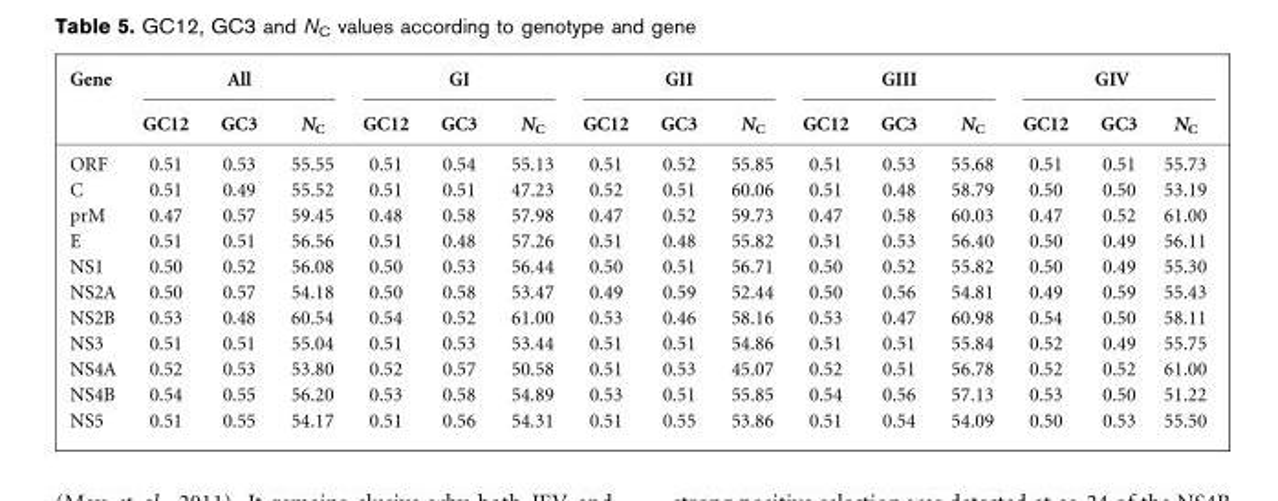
<table><thead><tr><td rowspan="2">Gene</td><td colspan="3">All</td><td colspan="3">GI</td><td colspan="3">GII</td><td colspan="3">GIII</td><td colspan="3">GIV</td></tr><tr><td>GC12</td><td>GC3</td><td>N<sub>C</sub></td><td>GC12</td><td>GC3</td><td>N<sub>C</sub></td><td>GC12</td><td>GC3</td><td>N<sub>C</sub></td><td>GC12</td><td>GC3</td><td>N<sub>C</sub></td><td>GC12</td><td>GC3</td><td>N<sub>C</sub></td></tr></thead><tbody><tr><td>ORF</td><td>0.51</td><td>0.53</td><td>55.55</td><td>0.51</td><td>0.54</td><td>55.13</td><td>0.51</td><td>0.52</td><td>55.85</td><td>0.51</td><td>0.53</td><td>55.68</td><td>0.51</td><td>0.51</td><td>55.73</td></tr><tr><td>C</td><td>0.51</td><td>0.49</td><td>55.52</td><td>0.51</td><td>0.51</td><td>47.23</td><td>0.52</td><td>0.51</td><td>60.06</td><td>0.51</td><td>0.48</td><td>58.79</td><td>0.50</td><td>0.50</td><td>53.19</td></tr><tr><td>prM</td><td>0.47</td><td>0.57</td><td>59.45</td><td>0.48</td><td>0.58</td><td>57.98</td><td>0.47</td><td>0.52</td><td>59.73</td><td>0.47</td><td>0.58</td><td>60.03</td><td>0.47</td><td>0.52</td><td>61.00</td></tr><tr><td>E</td><td>0.51</td><td>0.51</td><td>56.56</td><td>0.51</td><td>0.48</td><td>57.26</td><td>0.51</td><td>0.48</td><td>55.82</td><td>0.51</td><td>0.53</td><td>56.40</td><td>0.50</td><td>0.49</td><td>56.11</td></tr><tr><td>NS1</td><td>0.50</td><td>0.52</td><td>56.08</td><td>0.50</td><td>0.53</td><td>56.44</td><td>0.50</td><td>0.51</td><td>56.71</td><td>0.50</td><td>0.52</td><td>55.82</td><td>0.50</td><td>0.49</td><td>55.30</td></tr><tr><td>NS2A</td><td>0.50</td><td>0.57</td><td>54.18</td><td>0.50</td><td>0.58</td><td>53.47</td><td>0.49</td><td>0.59</td><td>52.44</td><td>0.50</td><td>0.56</td><td>54.81</td><td>0.49</td><td>0.59</td><td>55.43</td></tr><tr><td>NS2B</td><td>0.53</td><td>0.48</td><td>60.54</td><td>0.54</td><td>0.52</td><td>61.00</td><td>0.53</td><td>0.46</td><td>58.16</td><td>0.53</td><td>0.47</td><td>60.98</td><td>0.54</td><td>0.50</td><td>58.11</td></tr><tr><td>NS3</td><td>0.51</td><td>0.51</td><td>55.04</td><td>0.51</td><td>0.53</td><td>53.44</td><td>0.51</td><td>0.51</td><td>54.86</td><td>0.51</td><td>0.51</td><td>55.84</td><td>0.52</td><td>0.49</td><td>55.75</td></tr><tr><td>NS4A</td><td>0.52</td><td>0.53</td><td>53.80</td><td>0.52</td><td>0.57</td><td>50.58</td><td>0.51</td><td>0.53</td><td>45.07</td><td>0.52</td><td>0.51</td><td>56.78</td><td>0.52</td><td>0.52</td><td>61.00</td></tr><tr><td>NS4B</td><td>0.54</td><td>0.55</td><td>56.20</td><td>0.53</td><td>0.58</td><td>54.89</td><td>0.53</td><td>0.51</td><td>55.85</td><td>0.54</td><td>0.56</td><td>57.13</td><td>0.53</td><td>0.50</td><td>51.22</td></tr><tr><td>NS5</td><td>0.51</td><td>0.55</td><td>54.17</td><td>0.51</td><td>0.56</td><td>54.31</td><td>0.51</td><td>0.55</td><td>53.86</td><td>0.51</td><td>0.54</td><td>54.09</td><td>0.50</td><td>0.53</td><td>55.50</td></tr></tbody></table>